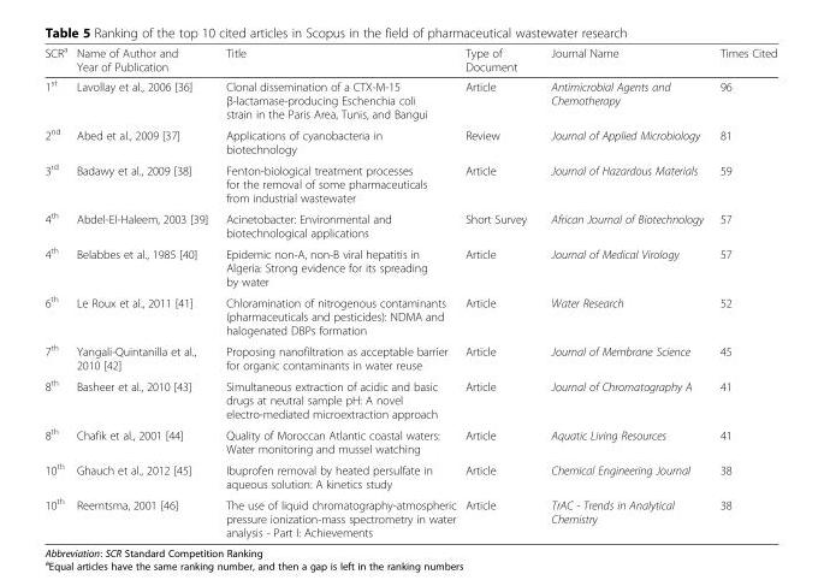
<table><thead><tr><td>SCR<sup>a</sup></td><td>Name of Author and Year of Publication</td><td>Title</td><td>Type of Document</td><td>Journal Name</td><td>Times Cited</td></tr></thead><tbody><tr><td>1<sup>st</sup></td><td>Lavollay et al., 2006 [36]</td><td>Clonal dissemination of a CTX-M-15 β-lactamase-producing Eschenchia coli strain in the Paris Area, Tunis, and Bangui</td><td>Article</td><td>Antimicrobial Agents and Chemotherapy</td><td>96</td></tr><tr><td>2<sup>nd</sup></td><td>Abed et al., 2009 [37]</td><td>Applications of cyanobacteria in biotechnology</td><td>Review</td><td>Journal of Applied Microbiology</td><td>81</td></tr><tr><td>3<sup>rd</sup></td><td>Badawy et al., 2009 [38]</td><td>Fenton-biological treatment processes for the removal of some pharmaceuticals from industrial wastewater</td><td>Article</td><td>Journal of Hazardous Materials</td><td>59</td></tr><tr><td>4<sup>th</sup></td><td>Abdel-El-Haleem, 2003 [39]</td><td>Acinetobacter: Environmental and biotechnological applications</td><td>Short Survey</td><td>African Journal of Biotechnology</td><td>57</td></tr><tr><td>4<sup>th</sup></td><td>Belabbes et al., 1985 [40]</td><td>Epidemic non-A, non-B viral hepatitis in Algeria: Strong evidence for its spreading by water</td><td>Article</td><td>Journal of Medical Virology</td><td>57</td></tr><tr><td>6<sup>th</sup></td><td>Le Roux et al., 2011 [41]</td><td>Chloramination of nitrogenous contaminants (pharmaceuticals and pesticides): NDMA and halogenated DBPs formation</td><td>Article</td><td>Water Research</td><td>52</td></tr><tr><td>7<sup>th</sup></td><td>Yangali-Quintanilla et al., 2010 [42]</td><td>Proposing nanofiltration as acceptable barrier for organic contaminants in water reuse</td><td>Article</td><td>Journal of Membrane Science</td><td>45</td></tr><tr><td>8<sup>th</sup></td><td>Basheer et al., 2010 [43]</td><td>Simultaneous extraction of acidic and basic drugs at neutral sample pH: A novel electro-mediated microextraction approach</td><td>Article</td><td>Journal of Chromatography A</td><td>41</td></tr><tr><td>8<sup>th</sup></td><td>Chafik et al., 2001 [44]</td><td>Quality of Moroccan Atlantic coastal waters: Water monitoring and mussel watching</td><td>Article</td><td>Aquatic Living Resources</td><td>41</td></tr><tr><td>10<sup>th</sup></td><td>Ghauch et al., 2012 [45]</td><td>Ibuprofen removal by heated persulfate in aqueous solution: A kinetics study</td><td>Article</td><td>Chemical Engineering Journal</td><td>38</td></tr><tr><td>10<sup>th</sup></td><td>Reemtsma, 2001 [46]</td><td>The use of liquid chromatography-atmospheric pressure ionization-mass spectrometry in water analysis - Part I: Achievements</td><td>Article</td><td>TrAC - Trends in Analytical Chemistry</td><td>38</td></tr></tbody></table>